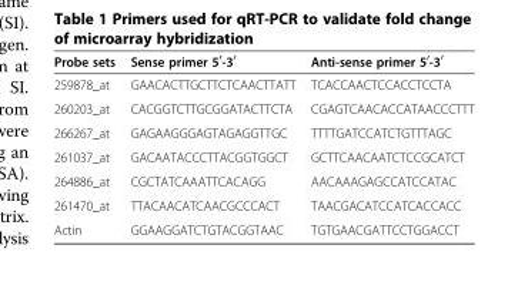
<table><thead><tr><td>Probe sets</td><td>Sense primer 5<sup>′</sup>-3<sup>′</sup></td><td>Anti-sense primer 5<sup>′</sup>-3<sup>′</sup></td></tr></thead><tbody><tr><td>259878_at</td><td>GAACACTTGCTTCTCAACTTATT</td><td>TCACCAACTCCACCTCCTA</td></tr><tr><td>260203_at</td><td>CACGGTCTTGCGGATACTTCTA</td><td>CGAGTCAACACCATAACCCTTT</td></tr><tr><td>266267_at</td><td>GAGAAGGGAGTAGAGGTTGC</td><td>TTTTGATCCATCTGTTTAGC</td></tr><tr><td>261037_at</td><td>GACAATACCCTTACGGTGGCT</td><td>GCTTCAACAATCTCCGCATCT</td></tr><tr><td>264886_at</td><td>CGCTATCAAATTCACAGG</td><td>AACAAAGAGCCATCCATAC</td></tr><tr><td>261470_at</td><td>TTACAACATCAACGCCCACT</td><td>TAACGACATCCATCACCACC</td></tr><tr><td>Actin</td><td>GGAAGGATCTGTACGGTAAC</td><td>TGTGAACGATTCCTGGACCT</td></tr></tbody></table>